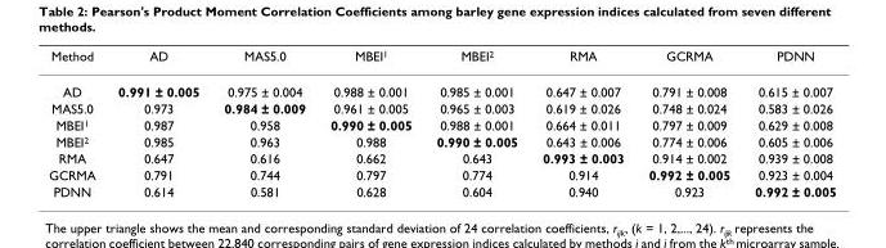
<table><thead><tr><td>Method</td><td>AD</td><td>MAS5.0</td><td>MBEI<sup>1</sup></td><td>MBEI<sup>2</sup></td><td>RMA</td><td>GCRMA</td><td>PDNN</td></tr></thead><tbody><tr><td>AD</td><td>0.991 ± 0.005</td><td>0.975 ± 0.004</td><td>0.988 ± 0.001</td><td>0.985 ± 0.001</td><td>0.647 ± 0.007</td><td>0.791 ± 0.008</td><td>0.615 ± 0.007</td></tr><tr><td>MAS5.0</td><td>0.973</td><td>0.984 ± 0.009</td><td>0.961 ± 0.005</td><td>0.965 ± 0.003</td><td>0.619 ± 0.026</td><td>0.748 ± 0.024</td><td>0.583 ± 0.026</td></tr><tr><td>MBEI<sup>1</sup></td><td>0.987</td><td>0.958</td><td>0.990 ± 0.005</td><td>0.988 ± 0.001</td><td>0.664 ± 0.011</td><td>0.797 ± 0.009</td><td>0.629 ± 0.008</td></tr><tr><td>MBEI<sup>2</sup></td><td>0.985</td><td>0.963</td><td>0.988</td><td>0.990 ± 0.005</td><td>0.643 ± 0.006</td><td>0.774 ± 0.006</td><td>0.605 ± 0.006</td></tr><tr><td>RMA</td><td>0.647</td><td>0.616</td><td>0.662</td><td>0.643</td><td>0.993 ± 0.003</td><td>0.914 ± 0.002</td><td>0.939 ± 0.008</td></tr><tr><td>GCRMA</td><td>0.791</td><td>0.744</td><td>0.797</td><td>0.774</td><td>0.914</td><td>0.992 ± 0.005</td><td>0.923 ± 0.004</td></tr><tr><td>PDNN</td><td>0.614</td><td>0.581</td><td>0.628</td><td>0.604</td><td>0.940</td><td>0.923</td><td>0.992 ± 0.005</td></tr></tbody></table>